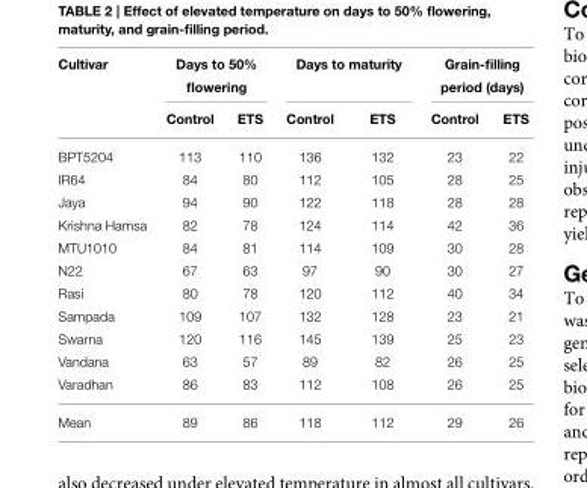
<table><thead><tr><td rowspan="2">Cultivar</td><td colspan="2">Days to 50% flowering</td><td colspan="2">Days to maturity</td><td colspan="2">Grain-filling period (days)</td></tr><tr><td>Control</td><td>ETS</td><td>Control</td><td>ETS</td><td>Control</td><td>ETS</td></tr></thead><tbody><tr><td>BPT5204</td><td>113</td><td>110</td><td>136</td><td>132</td><td>23</td><td>22</td></tr><tr><td>IR64</td><td>84</td><td>80</td><td>112</td><td>105</td><td>28</td><td>25</td></tr><tr><td>Jaya</td><td>94</td><td>90</td><td>122</td><td>118</td><td>28</td><td>28</td></tr><tr><td>Krishna Hamsa</td><td>82</td><td>78</td><td>124</td><td>114</td><td>42</td><td>36</td></tr><tr><td>MTU1010</td><td>84</td><td>81</td><td>114</td><td>109</td><td>30</td><td>28</td></tr><tr><td>N22</td><td>67</td><td>63</td><td>97</td><td>90</td><td>30</td><td>27</td></tr><tr><td>Rasi</td><td>80</td><td>78</td><td>120</td><td>112</td><td>40</td><td>34</td></tr><tr><td>Sampada</td><td>109</td><td>107</td><td>132</td><td>128</td><td>23</td><td>21</td></tr><tr><td>Swarna</td><td>120</td><td>116</td><td>145</td><td>139</td><td>25</td><td>23</td></tr><tr><td>Vandana</td><td>63</td><td>57</td><td>89</td><td>82</td><td>26</td><td>25</td></tr><tr><td>Varadhan</td><td>86</td><td>83</td><td>112</td><td>108</td><td>26</td><td>25</td></tr><tr><td>Mean</td><td>89</td><td>86</td><td>118</td><td>112</td><td>29</td><td>26</td></tr></tbody></table>